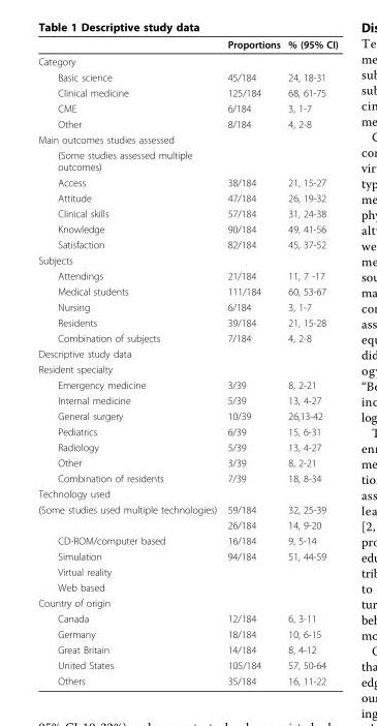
<table><thead><tr><td></td><td>Proportions</td><td>% (95% CI)</td></tr></thead><tbody><tr><td colspan="3">Category</td></tr><tr><td>Basic science</td><td>45/184</td><td>24, 18-31</td></tr><tr><td>Clinical medicine</td><td>125/184</td><td>68, 61-75</td></tr><tr><td>CME</td><td>6/184</td><td>3, 1-7</td></tr><tr><td>Other</td><td>8/184</td><td>4, 2-8</td></tr><tr><td colspan="3">Main outcomes studies assessed</td></tr><tr><td colspan="3">(Some studies assessed multiple outcomes)</td></tr><tr><td>Access</td><td>38/184</td><td>21, 15-27</td></tr><tr><td>Attitude</td><td>47/184</td><td>26, 19-32</td></tr><tr><td>Clinical skills</td><td>57/184</td><td>31, 24-38</td></tr><tr><td>Knowledge</td><td>90/184</td><td>49, 41-56</td></tr><tr><td>Satisfaction</td><td>82/184</td><td>45, 37-52</td></tr><tr><td colspan="3">Subjects</td></tr><tr><td>Attendings</td><td>21/184</td><td>11, 7 -17</td></tr><tr><td>Medical students</td><td>111/184</td><td>60, 53-67</td></tr><tr><td>Nursing</td><td>6/184</td><td>3, 1-7</td></tr><tr><td>Residents</td><td>39/184</td><td>21, 15-28</td></tr><tr><td>Combination of subjects</td><td>7/184</td><td>4, 2-8</td></tr><tr><td colspan="3">Descriptive study data</td></tr><tr><td colspan="3">Resident specialty</td></tr><tr><td>Emergency medicine</td><td>3/39</td><td>8, 2-21</td></tr><tr><td>Internal medicine</td><td>5/39</td><td>13, 4-27</td></tr><tr><td>General surgery</td><td>10/39</td><td>26,13-42</td></tr><tr><td>Pediatrics</td><td>6/39</td><td>15, 6-31</td></tr><tr><td>Radiology</td><td>5/39</td><td>13, 4-27</td></tr><tr><td>Other</td><td>3/39</td><td>8, 2-21</td></tr><tr><td>Combination of residents</td><td>7/39</td><td>18, 8-34</td></tr><tr><td colspan="3">Technology used</td></tr><tr><td rowspan="2">(Some studies used multiple technologies)</td><td>59/184</td><td>32, 25-39</td></tr><tr><td>26/184</td><td>14, 9-20</td></tr><tr><td>CD-ROM/computer based</td><td>16/184</td><td>9, 5-14</td></tr><tr><td>Simulation</td><td>94/184</td><td>51, 44-59</td></tr><tr><td colspan="3">Virtual reality</td></tr><tr><td colspan="3">Web based</td></tr><tr><td colspan="3">Country of origin</td></tr><tr><td>Canada</td><td>12/184</td><td>6, 3-11</td></tr><tr><td>Germany</td><td>18/184</td><td>10, 6-15</td></tr><tr><td>Great Britain</td><td>14/184</td><td>8, 4-12</td></tr><tr><td>United States</td><td>105/184</td><td>57, 50-64</td></tr><tr><td>Others</td><td>35/184</td><td>16, 11-22</td></tr></tbody></table>